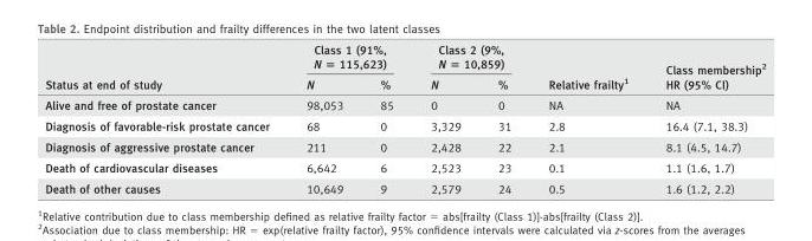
<table><thead><tr><td rowspan="2">Status at end of study</td><td colspan="2">Class 1 (91%, N = 115,623)</td><td colspan="2">Class 2 (9%, N = 10,859)</td><td rowspan="2">Relative frailty1</td><td rowspan="2">Class membership2 HR (95% CI)</td></tr><tr><td>N</td><td>%</td><td>N</td><td>%</td></tr></thead><tbody><tr><td>Alive and free of prostate cancer</td><td>98,053</td><td>85</td><td>0</td><td>0</td><td>NA</td><td>NA</td></tr><tr><td>Diagnosis of favorable-risk prostate cancer</td><td>68</td><td>0</td><td>3,329</td><td>31</td><td>2.8</td><td>16.4 (7.1, 38.3)</td></tr><tr><td>Diagnosis of aggressive prostate cancer</td><td>211</td><td>0</td><td>2,428</td><td>22</td><td>2.1</td><td>8.1 (4.5, 14.7)</td></tr><tr><td>Death of cardiovascular diseases</td><td>6,642</td><td>6</td><td>2,523</td><td>23</td><td>0.1</td><td>1.1 (1.6, 1.7)</td></tr><tr><td>Death of other causes</td><td>10,649</td><td>9</td><td>2,579</td><td>24</td><td>0.5</td><td>1.6 (1.2, 2.2)</td></tr></tbody></table>